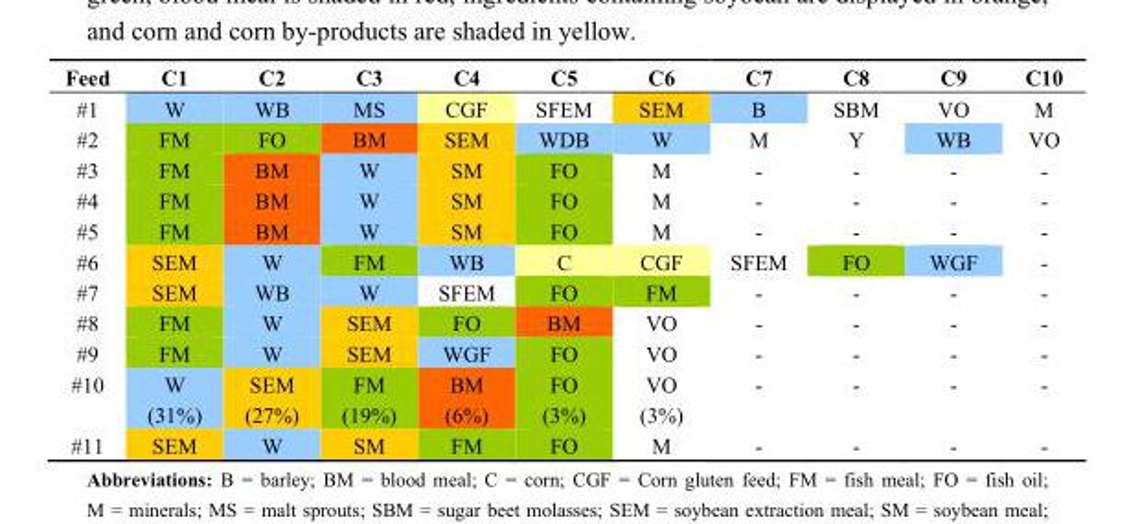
<table><thead><tr><td>Feed</td><td>C1</td><td>C2</td><td>C3</td><td>C4</td><td>C5</td><td>C6</td><td>C7</td><td>C8</td><td>C9</td><td>C10</td></tr></thead><tbody><tr><td>#1</td><td>W</td><td>WB</td><td>MS</td><td>CGF</td><td>SFEM</td><td>SEM</td><td>B</td><td>SBM</td><td>VO</td><td>M</td></tr><tr><td>#2</td><td>FM</td><td>FO</td><td>BM</td><td>SEM</td><td>WDB</td><td>W</td><td>M</td><td>Y</td><td>WB</td><td>VO</td></tr><tr><td>#3</td><td>FM</td><td>BM</td><td>W</td><td>SM</td><td>FO</td><td>M</td><td>-</td><td>-</td><td>-</td><td>-</td></tr><tr><td>#4</td><td>FM</td><td>BM</td><td>W</td><td>SM</td><td>FO</td><td>M</td><td>-</td><td>-</td><td>-</td><td>-</td></tr><tr><td>#5</td><td>FM</td><td>BM</td><td>W</td><td>SM</td><td>FO</td><td>M</td><td>-</td><td>-</td><td>-</td><td>-</td></tr><tr><td>#6</td><td>SEM</td><td>W</td><td>FM</td><td>WB</td><td>C</td><td>CGF</td><td>SFEM</td><td>FO</td><td>WGF</td><td>-</td></tr><tr><td>#7</td><td>SEM</td><td>WB</td><td>W</td><td>SFEM</td><td>FO</td><td>FM</td><td>-</td><td>-</td><td>-</td><td>-</td></tr><tr><td>#8</td><td>FM</td><td>W</td><td>SEM</td><td>FO</td><td>BM</td><td>VO</td><td>-</td><td>-</td><td>-</td><td>-</td></tr><tr><td>#9</td><td>FM</td><td>W</td><td>SEM</td><td>WGF</td><td>FO</td><td>VO</td><td>-</td><td>-</td><td>-</td><td>-</td></tr><tr><td>#10</td><td>W (31%)</td><td>SEM (27%)</td><td>FM (19%)</td><td>BM (6%)</td><td>FO (3%)</td><td>VO (3%)</td><td>-</td><td>-</td><td>-</td><td>-</td></tr><tr><td>#11</td><td>SEM</td><td>W</td><td>SM</td><td>FM</td><td>FO</td><td>M</td><td>-</td><td>-</td><td>-</td><td>-</td></tr></tbody></table>